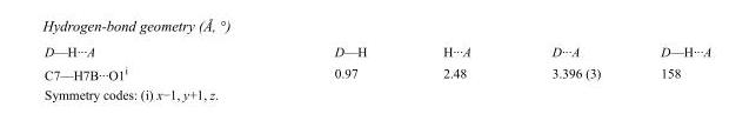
<table><tbody><tr><td>D—H···A</td><td>D—H</td><td>H···A</td><td>D···A</td><td>D—H···A</td></tr><tr><td>C7—H7B···O1<sup>i</sup></td><td>0.97</td><td>2.48</td><td>3.396 (3)</td><td>158</td></tr></tbody></table>